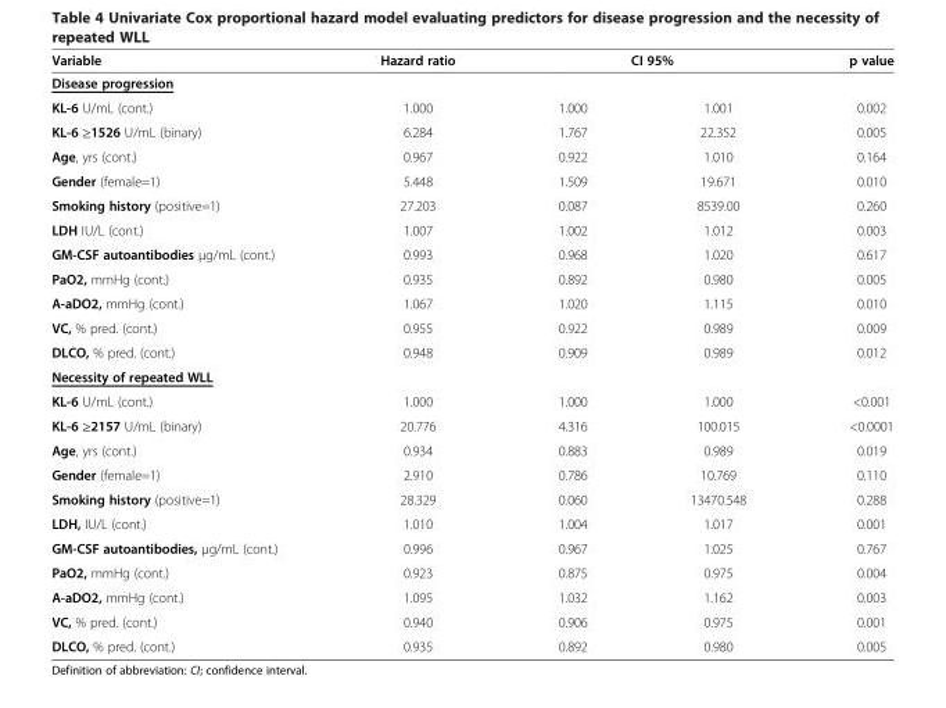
<table><thead><tr><td rowspan="2">Variable Disease progression</td><td rowspan="2">Hazard ratio</td><td colspan="2">CI 95%</td><td rowspan="2">p value</td></tr><tr><td></td><td></td></tr></thead><tbody><tr><td>KL-6 U/mL (cont.)</td><td>1.000</td><td>1.000</td><td>1.001</td><td>0.002</td></tr><tr><td>KL-6 ≥1526 U/mL (binary)</td><td>6.284</td><td>1.767</td><td>22.352</td><td>0.005</td></tr><tr><td>Age, yrs (cont.)</td><td>0.967</td><td>0.922</td><td>1.010</td><td>0.164</td></tr><tr><td>Gender (female=1)</td><td>5.448</td><td>1.509</td><td>19.671</td><td>0.010</td></tr><tr><td>Smoking history (positive=1)</td><td>27.203</td><td>0.087</td><td>8539.00</td><td>0.260</td></tr><tr><td>LDH IU/L (cont.)</td><td>1.007</td><td>1.002</td><td>1.012</td><td>0.003</td></tr><tr><td>GM-CSF autoantibodies μg/mL (cont.)</td><td>0.993</td><td>0.968</td><td>1.020</td><td>0.617</td></tr><tr><td>PaO2, mmHg (cont.)</td><td>0.935</td><td>0.892</td><td>0.980</td><td>0.005</td></tr><tr><td>A-aDO2, mmHg (cont.)</td><td>1.067</td><td>1.020</td><td>1.115</td><td>0.010</td></tr><tr><td>VC, % pred. (cont.)</td><td>0.955</td><td>0.922</td><td>0.989</td><td>0.009</td></tr><tr><td>DLCO, % pred. (cont.)</td><td>0.948</td><td>0.909</td><td>0.989</td><td>0.012</td></tr><tr><td colspan="5">Necessity of repeated WLL</td></tr><tr><td>KL-6 U/mL (cont.)</td><td>1.000</td><td>1.000</td><td>1.000</td><td>&lt;0.001</td></tr><tr><td>KL-6 ≥2157 U/mL (binary)</td><td>20.776</td><td>4.316</td><td>100.015</td><td>&lt;0.0001</td></tr><tr><td>Age, yrs (cont.)</td><td>0.934</td><td>0.883</td><td>0.989</td><td>0.019</td></tr><tr><td>Gender (female=1)</td><td>2.910</td><td>0.786</td><td>10.769</td><td>0.110</td></tr><tr><td>Smoking history (positive=1)</td><td>28.329</td><td>0.060</td><td>13470.548</td><td>0.288</td></tr><tr><td>LDH, IU/L (cont.)</td><td>1.010</td><td>1.004</td><td>1.017</td><td>0.001</td></tr><tr><td>GM-CSF autoantibodies, μg/mL (cont.)</td><td>0.996</td><td>0.967</td><td>1.025</td><td>0.767</td></tr><tr><td>PaO2, mmHg (cont.)</td><td>0.923</td><td>0.875</td><td>0.975</td><td>0.004</td></tr><tr><td>A-aDO2, mmHg (cont.)</td><td>1.095</td><td>1.032</td><td>1.162</td><td>0.003</td></tr><tr><td>VC, % pred. (cont.)</td><td>0.940</td><td>0.906</td><td>0.975</td><td>0.001</td></tr><tr><td>DLCO, % pred. (cont.)</td><td>0.935</td><td>0.892</td><td>0.980</td><td>0.005</td></tr></tbody></table>